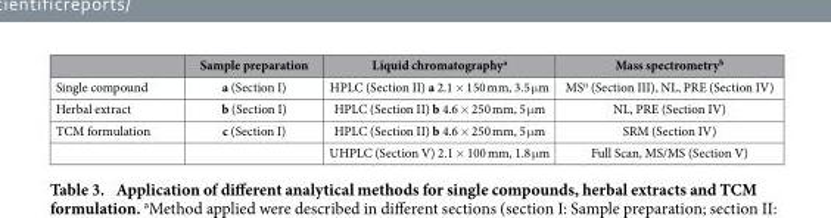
<table><thead><tr><td></td><td>Sample preparation</td><td>Liquid chromatography<sup>a</sup></td><td>Mass spectrometry<sup>b</sup></td></tr></thead><tbody><tr><td>Single compound</td><td>a (Section I)</td><td>HPLC (Section II) a 2.1 × 150 mm, 3.5 μ m</td><td>MS<sup>n</sup> (Section III), NL, PRE (Section IV)</td></tr><tr><td>Herbal extract</td><td>b (Section I)</td><td>HPLC (Section II) b 4.6 × 250 mm, 5 μ m</td><td>NL, PRE (Section IV)</td></tr><tr><td rowspan="2">TCM formulation</td><td>c (Section I)</td><td>HPLC (Section II) b 4.6 × 250 mm, 5 μ m</td><td>SRM (Section IV)</td></tr><tr><td></td><td>UHPLC (Section V) 2.1 × 100 mm, 1.8 μ m</td><td>Full Scan, MS/MS (Section V)</td></tr></tbody></table>